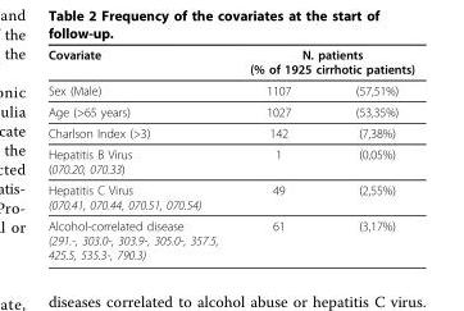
<table><thead><tr><td rowspan="2">Covariate Sex (Male)</td><td colspan="2">N. patients (% of 1925 cirrhotic patients)</td></tr><tr><td>1107</td><td>(57,51%)</td></tr></thead><tbody><tr><td>Age (&gt;65 years)</td><td>1027</td><td>(53,35%)</td></tr><tr><td>Charlson Index (&gt;3)</td><td>142</td><td>(7,38%)</td></tr><tr><td>Hepatitis B Virus (070.20, 070.33)</td><td>1</td><td>(0,05%)</td></tr><tr><td>Hepatitis C Virus (070.41, 070.44, 070.51, 070.54)</td><td>49</td><td>(2,55%)</td></tr><tr><td>Alcohol-correlated disease (291.-, 303.0-, 303.9-, 305.0-, 357.5, 425.5, 535.3-, 790.3)</td><td>61</td><td>(3,17%)</td></tr></tbody></table>